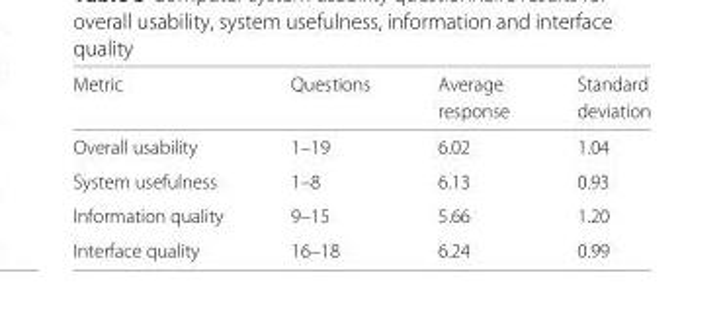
<table><thead><tr><td rowspan="2">Metric</td><td rowspan="2">Questions</td><td rowspan="2">Average response</td><td rowspan="2">Standard deviation</td></tr><tr></tr></thead><tbody><tr><td>Overall usability</td><td>1–19</td><td>6.02</td><td>1.04</td></tr><tr><td>System usefulness</td><td>1–8</td><td>6.13</td><td>0.93</td></tr><tr><td>Information quality</td><td>9–15</td><td>5.66</td><td>1.20</td></tr><tr><td>Interface quality</td><td>16–18</td><td>6.24</td><td>0.99</td></tr></tbody></table>